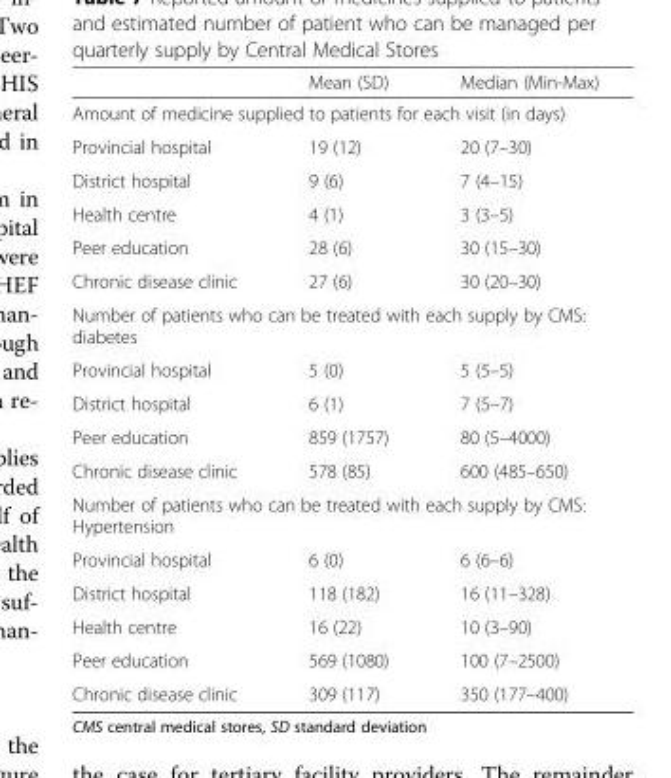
<table><thead><tr><td></td><td>Mean (SD)</td><td>Median (Min-Max)</td></tr></thead><tbody><tr><td colspan="3">Amount of medicine supplied to patients for each visit (in days)</td></tr><tr><td>Provincial hospital</td><td>19 (12)</td><td>20 (7–30)</td></tr><tr><td>District hospital</td><td>9 (6)</td><td>7 (4–15)</td></tr><tr><td>Health centre</td><td>4 (1)</td><td>3 (3–5)</td></tr><tr><td>Peer education</td><td>28 (6)</td><td>30 (15–30)</td></tr><tr><td>Chronic disease clinic</td><td>27 (6)</td><td>30 (20–30)</td></tr><tr><td colspan="3">Number of patients who can be treated with each supply by CMS: diabetes</td></tr><tr><td>Provincial hospital</td><td>5 (0)</td><td>5 (5–5)</td></tr><tr><td>District hospital</td><td>6 (1)</td><td>7 (5–7)</td></tr><tr><td>Peer education</td><td>859 (1757)</td><td>80 (5–4000)</td></tr><tr><td>Chronic disease clinic</td><td>578 (85)</td><td>600 (485–650)</td></tr><tr><td colspan="3">Number of patients who can be treated with each supply by CMS: Hypertension</td></tr><tr><td>Provincial hospital</td><td>6 (0)</td><td>6 (6–6)</td></tr><tr><td>District hospital</td><td>118 (182)</td><td>16 (11–328)</td></tr><tr><td>Health centre</td><td>16 (22)</td><td>10 (3–90)</td></tr><tr><td>Peer education</td><td>569 (1080)</td><td>100 (7–2500)</td></tr><tr><td>Chronic disease clinic</td><td>309 (117)</td><td>350 (177–400)</td></tr></tbody></table>